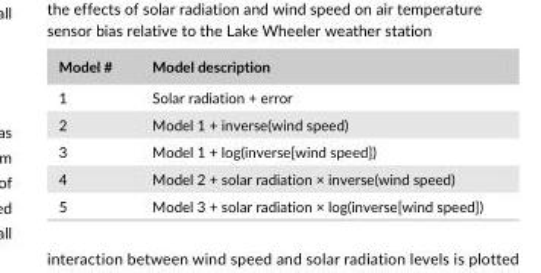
<table><thead><tr><td>Model #</td><td>Model description</td></tr></thead><tbody><tr><td>1</td><td>Solar radiation + error</td></tr><tr><td>2</td><td>Model 1 + inverse(wind speed)</td></tr><tr><td>3</td><td>Model 1 + log(inverse[wind speed])</td></tr><tr><td>4</td><td>Model 2 + solar radiation × inverse(wind speed)</td></tr><tr><td>5</td><td>Model 3 + solar radiation × log(inverse[wind speed])</td></tr></tbody></table>